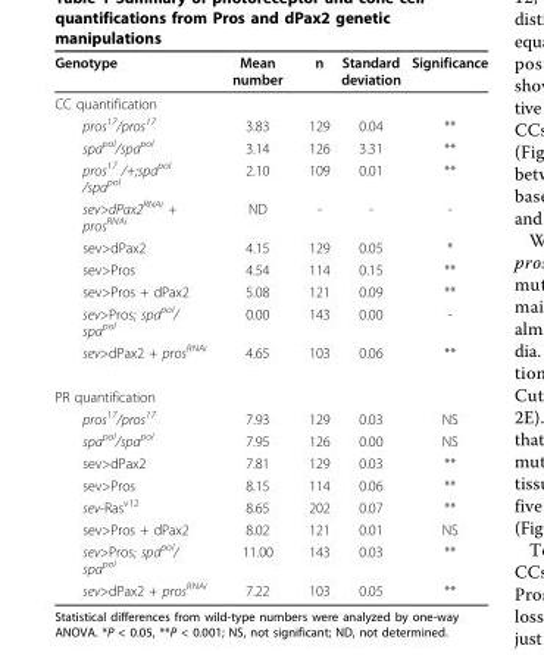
<table><thead><tr><td>Genotype</td><td>Mean number</td><td>n</td><td>Standard deviation</td><td>Significance</td></tr></thead><tbody><tr><td colspan="5">CC quantification</td></tr><tr><td>pros<sup>17</sup>/pros<sup>17</sup></td><td>3.83</td><td>129</td><td>0.04</td><td>**</td></tr><tr><td>spa<sup>pol</sup>/spa<sup>pol</sup></td><td>3.14</td><td>126</td><td>3.31</td><td>**</td></tr><tr><td>pros<sup>17</sup> /+;spa<sup>pol</sup> /spa<sup>pol</sup></td><td>2.10</td><td>109</td><td>0.01</td><td>**</td></tr><tr><td>sev&gt;dPax2<sup>RNAi</sup> + pros<sup>RNAi</sup></td><td>ND</td><td>-</td><td>-</td><td>-</td></tr><tr><td>sev&gt;dPax2</td><td>4.15</td><td>129</td><td>0.05</td><td>*</td></tr><tr><td>sev&gt;Pros</td><td>4.54</td><td>114</td><td>0.15</td><td>**</td></tr><tr><td>sev&gt;Pros + dPax2</td><td>5.08</td><td>121</td><td>0.09</td><td>**</td></tr><tr><td>sev&gt;Pros; spa<sup>pol</sup>/ spa<sup>pol</sup></td><td>0.00</td><td>143</td><td>0.00</td><td>-</td></tr><tr><td>sev&gt;dPax2 + pros<sup>RNAi</sup></td><td>4.65</td><td>103</td><td>0.06</td><td>**</td></tr><tr><td colspan="5">PR quantification</td></tr><tr><td>pros<sup>17</sup>/pros<sup>17</sup></td><td>7.93</td><td>129</td><td>0.03</td><td>NS</td></tr><tr><td>spa<sup>pol</sup>/spa<sup>pol</sup></td><td>7.95</td><td>126</td><td>0.00</td><td>NS</td></tr><tr><td>sev&gt;dPax2</td><td>7.81</td><td>129</td><td>0.03</td><td>**</td></tr><tr><td>sev&gt;Pros</td><td>8.15</td><td>114</td><td>0.06</td><td>**</td></tr><tr><td>sev-Ras<sup>v12</sup></td><td>8.65</td><td>202</td><td>0.07</td><td>**</td></tr><tr><td>sev&gt;Pros + dPax2</td><td>8.02</td><td>121</td><td>0.01</td><td>NS</td></tr><tr><td>sev&gt;Pros; spa<sup>pol</sup>/ spa<sup>pol</sup></td><td>11.00</td><td>143</td><td>0.03</td><td>**</td></tr><tr><td>sev&gt;dPax2 + pros<sup>RNAi</sup></td><td>7.22</td><td>103</td><td>0.05</td><td>**</td></tr></tbody></table>